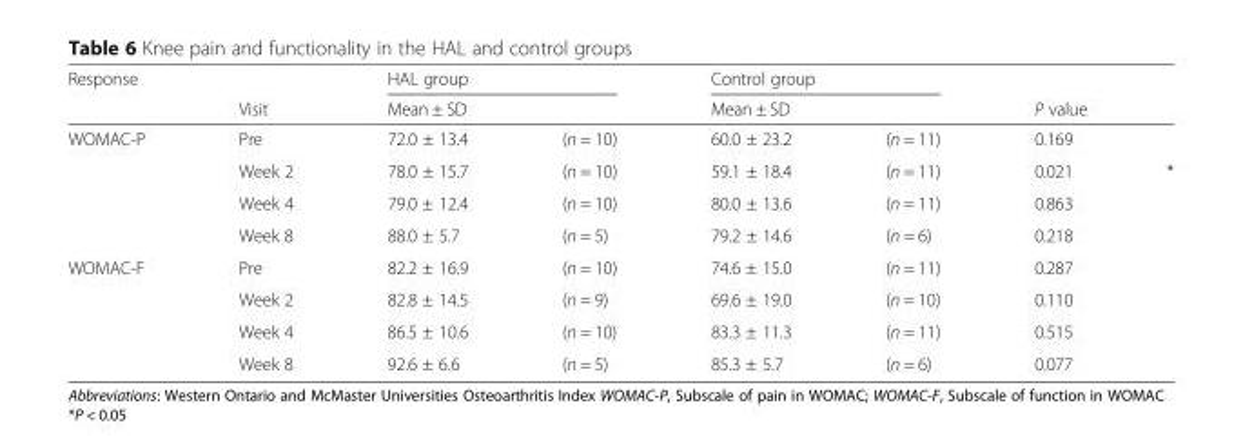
<table><thead><tr><td rowspan="2">Response</td><td rowspan="2">Visit</td><td colspan="2">HAL group</td><td colspan="2">Control group</td><td></td><td></td></tr><tr><td>Mean ± SD</td><td></td><td>Mean ± SD</td><td></td><td colspan="2">P value</td></tr></thead><tbody><tr><td rowspan="4">WOMAC-P</td><td>Pre</td><td>72.0 ± 13.4</td><td>(n = 10)</td><td>60.0 ± 23.2</td><td>(n = 11)</td><td>0.169</td><td></td></tr><tr><td>Week 2</td><td>78.0 ± 15.7</td><td>(n = 10)</td><td>59.1 ± 18.4</td><td>(n = 11)</td><td>0.021</td><td>*</td></tr><tr><td>Week 4</td><td>79.0 ± 12.4</td><td>(n = 10)</td><td>80.0 ± 13.6</td><td>(n = 11)</td><td>0.863</td><td></td></tr><tr><td>Week 8</td><td>88.0 ± 5.7</td><td>(n = 5)</td><td>79.2 ± 14.6</td><td>(n = 6)</td><td>0.218</td><td></td></tr><tr><td rowspan="4">WOMAC-F</td><td>Pre</td><td>82.2 ± 16.9</td><td>(n = 10)</td><td>74.6 ± 15.0</td><td>(n = 11)</td><td>0.287</td><td></td></tr><tr><td>Week 2</td><td>82.8 ± 14.5</td><td>(n = 9)</td><td>69.6 ± 19.0</td><td>(n = 10)</td><td>0.110</td><td></td></tr><tr><td>Week 4</td><td>86.5 ± 10.6</td><td>(n = 10)</td><td>83.3 ± 11.3</td><td>(n = 11)</td><td>0.515</td><td></td></tr><tr><td>Week 8</td><td>92.6 ± 6.6</td><td>(n = 5)</td><td>85.3 ± 5.7</td><td>(n = 6)</td><td>0.077</td><td></td></tr></tbody></table>